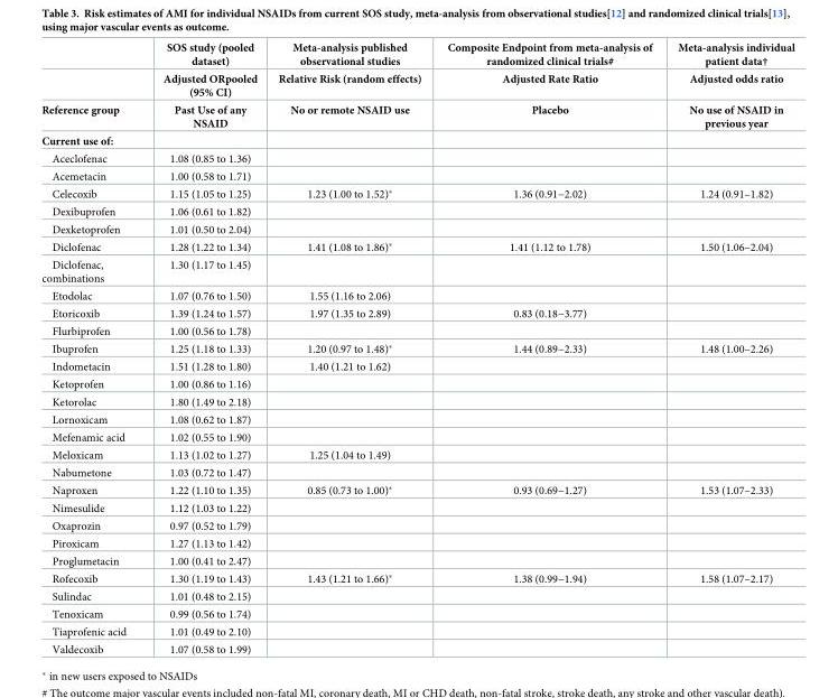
<table><thead><tr><td rowspan="3">Reference group</td><td rowspan="3">SOS study (pooled dataset) Adjusted ORpooled (95% CI) Past Use of any NSAID</td><td rowspan="3">Meta-analysis published observational studies Relative Risk (random effects) No or remote NSAID use</td><td rowspan="3">Composite Endpoint from meta-analysis of randomized clinical trials# Adjusted Rate Ratio Placebo</td><td rowspan="3">Meta-analysis individual patient data† Adjusted odds ratio No use of NSAID in previous year</td></tr><tr></tr><tr></tr></thead><tbody><tr><td colspan="5">Current use of:</td></tr><tr><td>Aceclofenac</td><td>1.08 (0.85 to 1.36)</td><td></td><td></td><td></td></tr><tr><td>Acemetacin</td><td>1.00 (0.58 to 1.71)</td><td></td><td></td><td></td></tr><tr><td>Celecoxib</td><td>1.15 (1.05 to 1.25)</td><td>1.23 (1.00 to 1.52)*</td><td>1.36 (0.91−2.02)</td><td>1.24 (0.91–1.82)</td></tr><tr><td>Dexibuprofen</td><td>1.06 (0.61 to 1.82)</td><td></td><td></td><td></td></tr><tr><td>Dexketoprofen</td><td>1.01 (0.50 to 2.04)</td><td></td><td></td><td></td></tr><tr><td>Diclofenac</td><td>1.28 (1.22 to 1.34)</td><td>1.41 (1.08 to 1.86)*</td><td>1.41 (1.12 to 1.78)</td><td>1.50 (1.06–2.04)</td></tr><tr><td>Diclofenac, combinations</td><td>1.30 (1.17 to 1.45)</td><td></td><td></td><td></td></tr><tr><td>Etodolac</td><td>1.07 (0.76 to 1.50)</td><td>1.55 (1.16 to 2.06)</td><td></td><td></td></tr><tr><td>Etoricoxib</td><td>1.39 (1.24 to 1.57)</td><td>1.97 (1.35 to 2.89)</td><td>0.83 (0.18−3.77)</td><td></td></tr><tr><td>Flurbiprofen</td><td>1.00 (0.56 to 1.78)</td><td></td><td></td><td></td></tr><tr><td>Ibuprofen</td><td>1.25 (1.18 to 1.33)</td><td>1.20 (0.97 to 1.48)*</td><td>1.44 (0.89−2.33)</td><td>1.48 (1.00–2.26)</td></tr><tr><td>Indometacin</td><td>1.51 (1.28 to 1.80)</td><td>1.40 (1.21 to 1.62)</td><td></td><td></td></tr><tr><td>Ketoprofen</td><td>1.00 (0.86 to 1.16)</td><td></td><td></td><td></td></tr><tr><td>Ketorolac</td><td>1.80 (1.49 to 2.18)</td><td></td><td></td><td></td></tr><tr><td>Lornoxicam</td><td>1.08 (0.62 to 1.87)</td><td></td><td></td><td></td></tr><tr><td>Mefenamic acid</td><td>1.02 (0.55 to 1.90)</td><td></td><td></td><td></td></tr><tr><td>Meloxicam</td><td>1.13 (1.02 to 1.27)</td><td>1.25 (1.04 to 1.49)</td><td></td><td></td></tr><tr><td>Nabumetone</td><td>1.03 (0.72 to 1.47)</td><td></td><td></td><td></td></tr><tr><td>Naproxen</td><td>1.22 (1.10 to 1.35)</td><td>0.85 (0.73 to 1.00)*</td><td>0.93 (0.69−1.27)</td><td>1.53 (1.07–2.33)</td></tr><tr><td>Nimesulide</td><td>1.12 (1.03 to 1.22)</td><td></td><td></td><td></td></tr><tr><td>Oxaprozin</td><td>0.97 (0.52 to 1.79)</td><td></td><td></td><td></td></tr><tr><td>Piroxicam</td><td>1.27 (1.13 to 1.42)</td><td></td><td></td><td></td></tr><tr><td>Proglumetacin</td><td>1.00 (0.41 to 2.47)</td><td></td><td></td><td></td></tr><tr><td>Rofecoxib</td><td>1.30 (1.19 to 1.43)</td><td>1.43 (1.21 to 1.66)*</td><td>1.38 (0.99−1.94)</td><td>1.58 (1.07–2.17)</td></tr><tr><td>Sulindac</td><td>1.01 (0.48 to 2.15)</td><td></td><td></td><td></td></tr><tr><td>Tenoxicam</td><td>0.99 (0.56 to 1.74)</td><td></td><td></td><td></td></tr><tr><td>Tiaprofenic acid</td><td>1.01 (0.49 to 2.10)</td><td></td><td></td><td></td></tr><tr><td>Valdecoxib</td><td>1.07 (0.58 to 1.99)</td><td></td><td></td><td></td></tr></tbody></table>